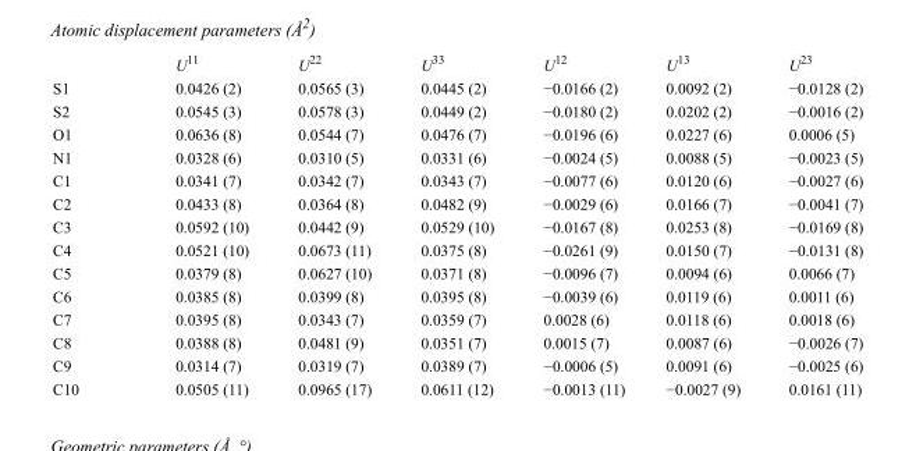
<table><thead><tr><td></td><td>U<sup>11</sup></td><td>U<sup>22</sup></td><td>U<sup>33</sup></td><td>U<sup>12</sup></td><td>U<sup>13</sup></td><td>U<sup>23</sup></td></tr></thead><tbody><tr><td>S1</td><td>0.0426 (2)</td><td>0.0565 (3)</td><td>0.0445 (2)</td><td>−0.0166 (2)</td><td>0.0092 (2)</td><td>−0.0128 (2)</td></tr><tr><td>S2</td><td>0.0545 (3)</td><td>0.0578 (3)</td><td>0.0449 (2)</td><td>−0.0180 (2)</td><td>0.0202 (2)</td><td>−0.0016 (2)</td></tr><tr><td>O1</td><td>0.0636 (8)</td><td>0.0544 (7)</td><td>0.0476 (7)</td><td>−0.0196 (6)</td><td>0.0227 (6)</td><td>0.0006 (5)</td></tr><tr><td>N1</td><td>0.0328 (6)</td><td>0.0310 (5)</td><td>0.0331 (6)</td><td>−0.0024 (5)</td><td>0.0088 (5)</td><td>−0.0023 (5)</td></tr><tr><td>C1</td><td>0.0341 (7)</td><td>0.0342 (7)</td><td>0.0343 (7)</td><td>−0.0077 (6)</td><td>0.0120 (6)</td><td>−0.0027 (6)</td></tr><tr><td>C2</td><td>0.0433 (8)</td><td>0.0364 (8)</td><td>0.0482 (9)</td><td>−0.0029 (6)</td><td>0.0166 (7)</td><td>−0.0041 (7)</td></tr><tr><td>C3</td><td>0.0592 (10)</td><td>0.0442 (9)</td><td>0.0529 (10)</td><td>−0.0167 (8)</td><td>0.0253 (8)</td><td>−0.0169 (8)</td></tr><tr><td>C4</td><td>0.0521 (10)</td><td>0.0673 (11)</td><td>0.0375 (8)</td><td>−0.0261 (9)</td><td>0.0150 (7)</td><td>−0.0131 (8)</td></tr><tr><td>C5</td><td>0.0379 (8)</td><td>0.0627 (10)</td><td>0.0371 (8)</td><td>−0.0096 (7)</td><td>0.0094 (6)</td><td>0.0066 (7)</td></tr><tr><td>C6</td><td>0.0385 (8)</td><td>0.0399 (8)</td><td>0.0395 (8)</td><td>−0.0039 (6)</td><td>0.0119 (6)</td><td>0.0011 (6)</td></tr><tr><td>C7</td><td>0.0395 (8)</td><td>0.0343 (7)</td><td>0.0359 (7)</td><td>0.0028 (6)</td><td>0.0118 (6)</td><td>0.0018 (6)</td></tr><tr><td>C8</td><td>0.0388 (8)</td><td>0.0481 (9)</td><td>0.0351 (7)</td><td>0.0015 (7)</td><td>0.0087 (6)</td><td>−0.0026 (7)</td></tr><tr><td>C9</td><td>0.0314 (7)</td><td>0.0319 (7)</td><td>0.0389 (7)</td><td>−0.0006 (5)</td><td>0.0091 (6)</td><td>−0.0025 (6)</td></tr><tr><td>C10</td><td>0.0505 (11)</td><td>0.0965 (17)</td><td>0.0611 (12)</td><td>−0.0013 (11)</td><td>−0.0027 (9)</td><td>0.0161 (11)</td></tr></tbody></table>